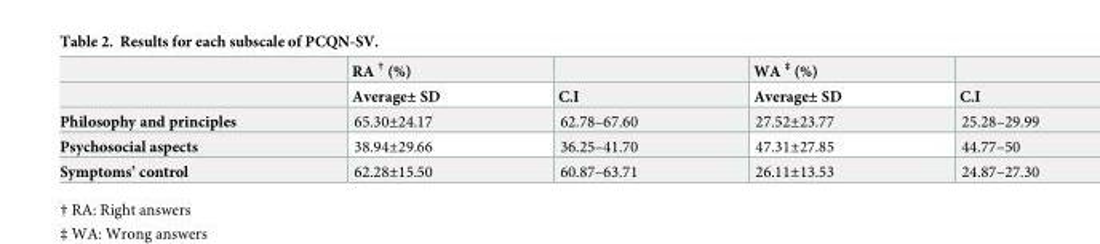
<table><thead><tr><td rowspan="2"></td><td rowspan="2">RA <sup>†</sup> (%) Average± SD</td><td rowspan="2">C.I</td><td rowspan="2">WA <sup>‡</sup> (%) Average± SD</td><td rowspan="2">C.I</td></tr><tr></tr></thead><tbody><tr><td>Philosophy and principles</td><td>65.30±24.17</td><td>62.78–67.60</td><td>27.52±23.77</td><td>25.28–29.99</td></tr><tr><td>Psychosocial aspects</td><td>38.94±29.66</td><td>36.25–41.70</td><td>47.31±27.85</td><td>44.77–50</td></tr><tr><td>Symptoms’ control</td><td>62.28±15.50</td><td>60.87–63.71</td><td>26.11±13.53</td><td>24.87–27.30</td></tr></tbody></table>